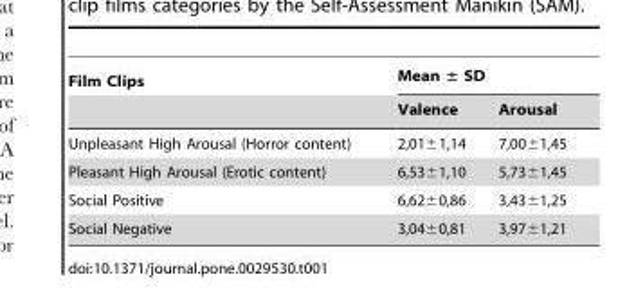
<table><thead><tr><td rowspan="2">Film Clips</td><td colspan="2">Mean ± SD</td></tr><tr><td>Valence</td><td>Arousal</td></tr></thead><tbody><tr><td>Unpleasant High Arousal (Horror content)</td><td>2,01±1,14</td><td>7,00±1,45</td></tr><tr><td>Pleasant High Arousal (Erotic content)</td><td>6,53±1,10</td><td>5,73±1,45</td></tr><tr><td>Social Positive</td><td>6,62±0,86</td><td>3,43±1,25</td></tr><tr><td>Social Negative</td><td>3,04±0,81</td><td>3,97±1,21</td></tr></tbody></table>